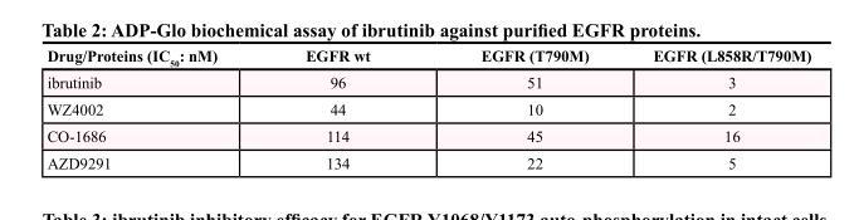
<table><thead><tr><td>Drug/Proteins (IC<sub>50</sub>: nM)</td><td>EGFR wt</td><td>EGFR (T790M)</td><td>EGFR (L858R/T790M)</td></tr></thead><tbody><tr><td>ibrutinib</td><td>96</td><td>51</td><td>3</td></tr><tr><td>WZ4002</td><td>44</td><td>10</td><td>2</td></tr><tr><td>CO-1686</td><td>114</td><td>45</td><td>16</td></tr><tr><td>AZD9291</td><td>134</td><td>22</td><td>5</td></tr></tbody></table>